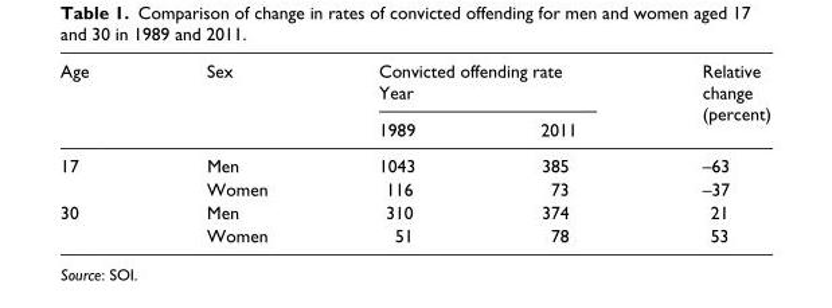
<table><thead><tr><td rowspan="2">Age</td><td rowspan="2">Sex</td><td colspan="2">Convicted offending rate Year</td><td rowspan="2">Relative change (percent)</td></tr><tr><td>1989</td><td>2011</td></tr></thead><tbody><tr><td rowspan="2">17</td><td>Men</td><td>1043</td><td>385</td><td>–63</td></tr><tr><td>Women</td><td>116</td><td>73</td><td>–37</td></tr><tr><td rowspan="2">30</td><td>Men</td><td>310</td><td>374</td><td>21</td></tr><tr><td>Women</td><td>51</td><td>78</td><td>53</td></tr></tbody></table>